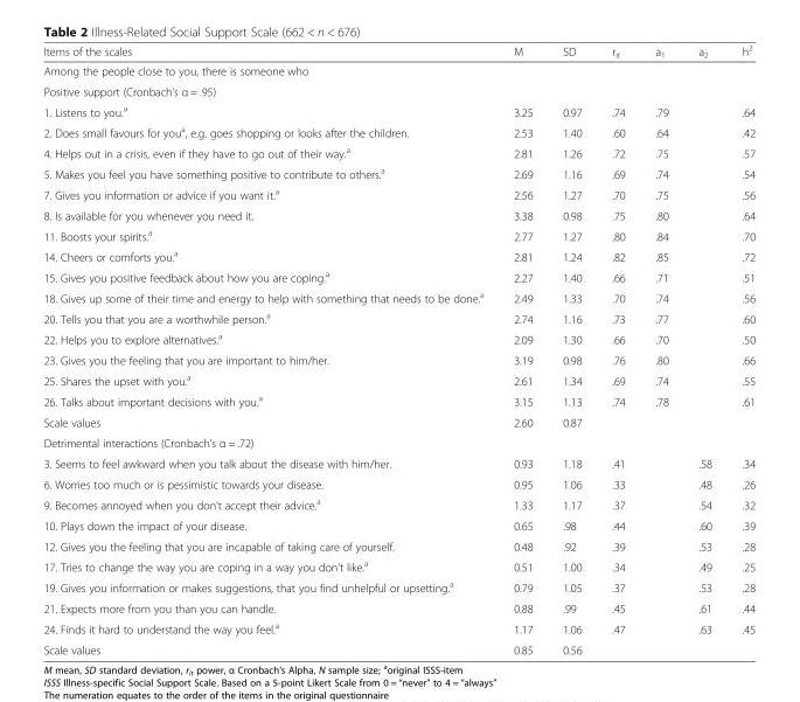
<table><thead><tr><td>Items of the scales</td><td>M</td><td>SD</td><td>r<sub>it</sub></td><td>a<sub>1</sub></td><td>a<sub>2</sub></td><td>h<sup>2</sup></td></tr></thead><tbody><tr><td colspan="7">Among the people close to you, there is someone who</td></tr><tr><td colspan="7">Positive support (Cronbach’s α = .95)</td></tr><tr><td>1. Listens to you.<sup>a</sup></td><td>3.25</td><td>0.97</td><td>.74</td><td>.79</td><td></td><td>.64</td></tr><tr><td>2. Does small favours for you<sup>a</sup>, e.g. goes shopping or looks after the children.</td><td>2.53</td><td>1.40</td><td>.60</td><td>.64</td><td></td><td>.42</td></tr><tr><td>4. Helps out in a crisis, even if they have to go out of their way.<sup>a</sup></td><td>2.81</td><td>1.26</td><td>.72</td><td>.75</td><td></td><td>.57</td></tr><tr><td>5. Makes you feel you have something positive to contribute to others.<sup>a</sup></td><td>2.69</td><td>1.16</td><td>.69</td><td>.74</td><td></td><td>.54</td></tr><tr><td>7. Gives you information or advice if you want it.<sup>a</sup></td><td>2.56</td><td>1.27</td><td>.70</td><td>.75</td><td></td><td>.56</td></tr><tr><td>8. Is available for you whenever you need it.</td><td>3.38</td><td>0.98</td><td>.75</td><td>.80</td><td></td><td>.64</td></tr><tr><td>11. Boosts your spirits.<sup>a</sup></td><td>2.77</td><td>1.27</td><td>.80</td><td>.84</td><td></td><td>.70</td></tr><tr><td>14. Cheers or comforts you.<sup>a</sup></td><td>2.81</td><td>1.24</td><td>.82</td><td>.85</td><td></td><td>.72</td></tr><tr><td>15. Gives you positive feedback about how you are coping.<sup>a</sup></td><td>2.27</td><td>1.40</td><td>.66</td><td>.71</td><td></td><td>.51</td></tr><tr><td>18. Gives up some of their time and energy to help with something that needs to be done.<sup>a</sup></td><td>2.49</td><td>1.33</td><td>.70</td><td>.74</td><td></td><td>.56</td></tr><tr><td>20. Tells you that you are a worthwhile person.<sup>a</sup></td><td>2.74</td><td>1.16</td><td>.73</td><td>.77</td><td></td><td>.60</td></tr><tr><td>22. Helps you to explore alternatives.<sup>a</sup></td><td>2.09</td><td>1.30</td><td>.66</td><td>.70</td><td></td><td>.50</td></tr><tr><td>23. Gives you the feeling that you are important to him/her.</td><td>3.19</td><td>0.98</td><td>.76</td><td>.80</td><td></td><td>.66</td></tr><tr><td>25. Shares the upset with you.<sup>a</sup></td><td>2.61</td><td>1.34</td><td>.69</td><td>.74</td><td></td><td>.55</td></tr><tr><td>26. Talks about important decisions with you.<sup>a</sup></td><td>3.15</td><td>1.13</td><td>.74</td><td>.78</td><td></td><td>.61</td></tr><tr><td>Scale values</td><td>2.60</td><td>0.87</td><td></td><td></td><td></td><td></td></tr><tr><td colspan="7">Detrimental interactions (Cronbach’s α = .72)</td></tr><tr><td>3. Seems to feel awkward when you talk about the disease with him/her.</td><td>0.93</td><td>1.18</td><td>.41</td><td></td><td>.58</td><td>.34</td></tr><tr><td>6. Worries too much or is pessimistic towards your disease.</td><td>0.95</td><td>1.06</td><td>.33</td><td></td><td>.48</td><td>.26</td></tr><tr><td>9. Becomes annoyed when you don’t accept their advice.<sup>a</sup></td><td>1.33</td><td>1.17</td><td>.37</td><td></td><td>.54</td><td>.32</td></tr><tr><td>10. Plays down the impact of your disease.</td><td>0.65</td><td>.98</td><td>.44</td><td></td><td>.60</td><td>.39</td></tr><tr><td>12. Gives you the feeling that you are incapable of taking care of yourself.</td><td>0.48</td><td>.92</td><td>.39</td><td></td><td>.53</td><td>.28</td></tr><tr><td>17. Tries to change the way you are coping in a way you don’t like.<sup>a</sup></td><td>0.51</td><td>1.00</td><td>.34</td><td></td><td>.49</td><td>.25</td></tr><tr><td>19. Gives you information or makes suggestions, that you find unhelpful or upsetting.<sup>a</sup></td><td>0.79</td><td>1.05</td><td>.37</td><td></td><td>.53</td><td>.28</td></tr><tr><td>21. Expects more from you than you can handle.</td><td>0.88</td><td>.99</td><td>.45</td><td></td><td>.61</td><td>.44</td></tr><tr><td>24. Finds it hard to understand the way you feel.<sup>a</sup></td><td>1.17</td><td>1.06</td><td>.47</td><td></td><td>.63</td><td>.45</td></tr><tr><td>Scale values</td><td>0.85</td><td>0.56</td><td></td><td></td><td></td><td></td></tr></tbody></table>